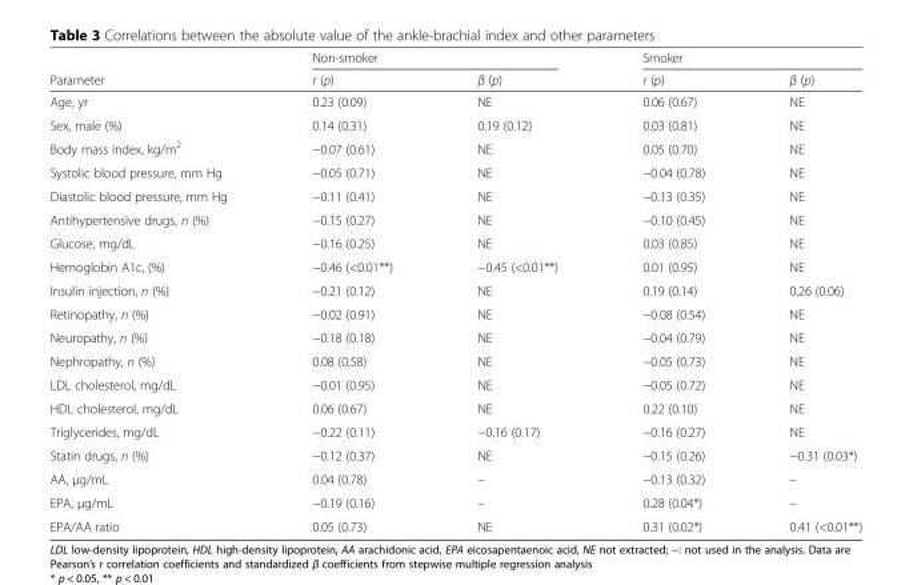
<table><thead><tr><td rowspan="2">Parameter</td><td colspan="2">Non-smoker</td><td colspan="2">Smoker</td></tr><tr><td>r (p)</td><td>β (p)</td><td>r (p)</td><td>β (p)</td></tr></thead><tbody><tr><td>Age, yr</td><td>0.23 (0.09)</td><td>NE</td><td>0.06 (0.67)</td><td>NE</td></tr><tr><td>Sex, male (%)</td><td>0.14 (0.31)</td><td>0.19 (0.12)</td><td>0.03 (0.81)</td><td>NE</td></tr><tr><td>Body mass index, kg/m<sup>2</sup></td><td>−0.07 (0.61)</td><td>NE</td><td>0.05 (0.70)</td><td>NE</td></tr><tr><td>Systolic blood pressure, mm Hg</td><td>−0.05 (0.71)</td><td>NE</td><td>−0.04 (0.78)</td><td>NE</td></tr><tr><td>Diastolic blood pressure, mm Hg</td><td>−0.11 (0.41)</td><td>NE</td><td>−0.13 (0.35)</td><td>NE</td></tr><tr><td>Antihypertensive drugs, n (%)</td><td>−0.15 (0.27)</td><td>NE</td><td>−0.10 (0.45)</td><td>NE</td></tr><tr><td>Glucose, mg/dL</td><td>−0.16 (0.25)</td><td>NE</td><td>0.03 (0.85)</td><td>NE</td></tr><tr><td>Hemoglobin A1c, (%)</td><td>−0.46 (&lt;0.01**)</td><td>−0.45 (&lt;0.01**)</td><td>0.01 (0.95)</td><td>NE</td></tr><tr><td>Insulin injection, n (%)</td><td>−0.21 (0.12)</td><td>NE</td><td>0.19 (0.14)</td><td>0.26 (0.06)</td></tr><tr><td>Retinopathy, n (%)</td><td>−0.02 (0.91)</td><td>NE</td><td>−0.08 (0.54)</td><td>NE</td></tr><tr><td>Neuropathy, n (%)</td><td>−0.18 (0.18)</td><td>NE</td><td>−0.04 (0.79)</td><td>NE</td></tr><tr><td>Nephropathy, n (%)</td><td>0.08 (0.58)</td><td>NE</td><td>−0.05 (0.73)</td><td>NE</td></tr><tr><td>LDL cholesterol, mg/dL</td><td>−0.01 (0.95)</td><td>NE</td><td>−0.05 (0.72)</td><td>NE</td></tr><tr><td>HDL cholesterol, mg/dL</td><td>0.06 (0.67)</td><td>NE</td><td>0.22 (0.10)</td><td>NE</td></tr><tr><td>Triglycerides, mg/dL</td><td>−0.22 (0.11)</td><td>−0.16 (0.17)</td><td>−0.16 (0.27)</td><td>NE</td></tr><tr><td>Statin drugs, n (%)</td><td>−0.12 (0.37)</td><td>NE</td><td>−0.15 (0.26)</td><td>−0.31 (0.03*)</td></tr><tr><td>AA, μg/mL</td><td>0.04 (0.78)</td><td>–</td><td>−0.13 (0.32)</td><td>–</td></tr><tr><td>EPA, μg/mL</td><td>−0.19 (0.16)</td><td>–</td><td>0.28 (0.04*)</td><td>–</td></tr><tr><td>EPA/AA ratio</td><td>0.05 (0.73)</td><td>NE</td><td>0.31 (0.02*)</td><td>0.41 (&lt;0.01**)</td></tr></tbody></table>